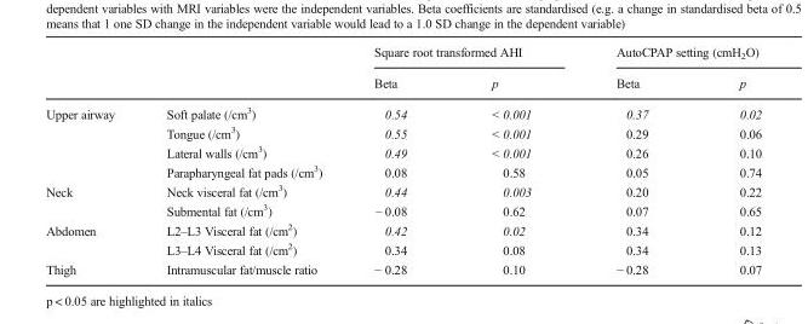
<table><thead><tr><td rowspan="2"></td><td rowspan="2"></td><td colspan="2">Square root transformed AHI</td><td colspan="2">AutoCPAP setting (cmH<sub>2</sub>O)</td></tr><tr><td>Beta</td><td>p</td><td>Beta</td><td>p</td></tr></thead><tbody><tr><td rowspan="4">Upper airway</td><td>Soft palate (/cm<sup>3</sup>)</td><td>0.54</td><td>&lt; 0.001</td><td>0.37</td><td>0.02</td></tr><tr><td>Tongue (/cm<sup>3</sup>)</td><td>0.55</td><td>&lt; 0.001</td><td>0.29</td><td>0.06</td></tr><tr><td>Lateral walls (/cm<sup>3</sup>)</td><td>0.49</td><td>&lt; 0.001</td><td>0.26</td><td>0.10</td></tr><tr><td>Parapharyngeal fat pads (/cm<sup>3</sup>)</td><td>0.08</td><td>0.58</td><td>0.05</td><td>0.74</td></tr><tr><td rowspan="2">Neck</td><td>Neck visceral fat (/cm<sup>3</sup>)</td><td>0.44</td><td>0.003</td><td>0.20</td><td>0.22</td></tr><tr><td>Submental fat (/cm<sup>3</sup>)</td><td>− 0.08</td><td>0.62</td><td>0.07</td><td>0.65</td></tr><tr><td rowspan="2">Abdomen</td><td>L2–L3 Visceral fat (/cm<sup>2</sup>)</td><td>0.42</td><td>0.02</td><td>0.34</td><td>0.12</td></tr><tr><td>L3–L4 Visceral fat (/cm<sup>2</sup>)</td><td>0.34</td><td>0.08</td><td>0.34</td><td>0.13</td></tr><tr><td>Thigh</td><td>Intramuscular fat/muscle ratio</td><td>− 0.28</td><td>0.10</td><td>− 0.28</td><td>0.07</td></tr></tbody></table>